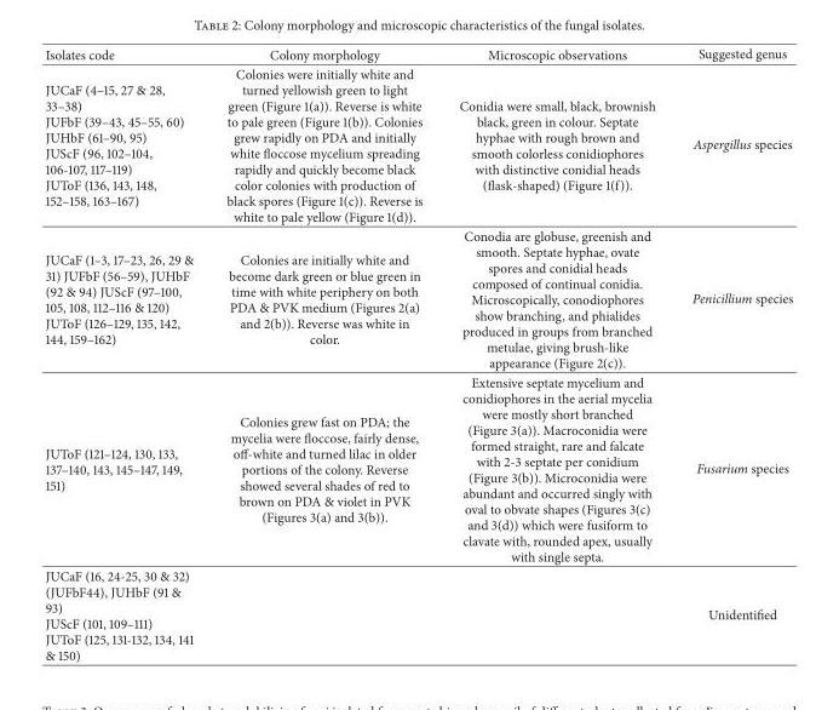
<table><thead><tr><td>Isolates code</td><td>Colony morphology</td><td>Microscopic observations</td><td>Suggested genus</td></tr></thead><tbody><tr><td>JUCaF (4–15, 27 &amp; 28, 33–38) JUFbF (39–43, 45–55, 60) JUHbF (61–90, 95) JUScF (96, 102–104, 106-107, 117–119) JUToF (136, 143, 148, 152–158, 163–167)</td><td>Colonies were initially white and turned yellowish green to light green (Figure 1(a)). Reverse is white to pale green (Figure 1(b)). Colonies grew rapidly on PDA and initially white floccose mycelium spreading rapidly and quickly become black color colonies with production of black spores (Figure 1(c)). Reverse is white to pale yellow (Figure 1(d)).</td><td>Conidia were small, black, brownish black, green in colour. Septate hyphae with rough brown and smooth colorless conidiophores with distinctive conidial heads (flask-shaped) (Figure 1(f)).</td><td>Aspergillus species</td></tr><tr><td>JUCaF (1–3, 17–23, 26, 29 &amp; 31) JUFbF (56–59), JUHbF (92 &amp; 94) JUScF (97–100, 105, 108, 112–116 &amp; 120) JUToF (126–129, 135, 142, 144, 159–162)</td><td>Colonies are initially white and become dark green or blue green in time with white periphery on both PDA &amp; PVK medium (Figures 2(a) and 2(b)). Reverse was white in color.</td><td>Conodia are globuse, greenish and smooth. Septate hyphae, ovate spores and conidial heads composed of continual conidia. Microscopically, conodiophores show branching, and phialides produced in groups from branched metulae, giving brush-like appearance (Figure 2(c)).</td><td>Penicillium species</td></tr><tr><td>JUToF (121–124, 130, 133, 137–140, 143, 145–147, 149, 151)</td><td>Colonies grew fast on PDA; the mycelia were floccose, fairly dense, off-white and turned lilac in older portions of the colony. Reverse showed several shades of red to brown on PDA &amp; violet in PVK (Figures 3(a) and 3(b)).</td><td>Extensive septate mycelium and conidiophores in the aerial mycelia were mostly short branched (Figure 3(a)). Macroconidia were formed straight, rare and falcate with 2-3 septate per conidium (Figure 3(b)). Microconidia were abundant and occurred singly with oval to obvate shapes (Figures 3(c) and 3(d)) which were fusiform to clavate with, rounded apex, usually with single septa.</td><td>Fusarium species</td></tr><tr><td>JUCaF (16, 24-25, 30 &amp; 32) (JUFbF44), JUHbF (91 &amp; 93) JUScF (101, 109–111) JUToF (125, 131-132, 134, 141 &amp; 150)</td><td></td><td></td><td>Unidentified</td></tr></tbody></table>